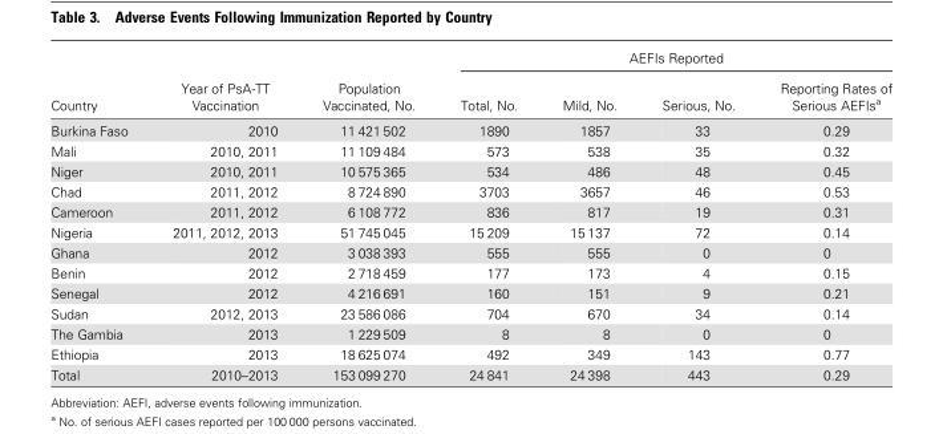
<table><thead><tr><td rowspan="2">Country</td><td rowspan="2">Year of PsA-TT Vaccination</td><td rowspan="2">Population Vaccinated, No.</td><td colspan="4">AEFIs Reported</td></tr><tr><td>Total, No.</td><td>Mild, No.</td><td>Serious, No.</td><td>Reporting Rates of Serious AEFIs<sup>a</sup></td></tr></thead><tbody><tr><td>Burkina Faso</td><td>2010</td><td>11 421 502</td><td>1890</td><td>1857</td><td>33</td><td>0.29</td></tr><tr><td>Mali</td><td>2010, 2011</td><td>11 109 484</td><td>573</td><td>538</td><td>35</td><td>0.32</td></tr><tr><td>Niger</td><td>2010, 2011</td><td>10 575 365</td><td>534</td><td>486</td><td>48</td><td>0.45</td></tr><tr><td>Chad</td><td>2011, 2012</td><td>8 724 890</td><td>3703</td><td>3657</td><td>46</td><td>0.53</td></tr><tr><td>Cameroon</td><td>2011, 2012</td><td>6 108 772</td><td>836</td><td>817</td><td>19</td><td>0.31</td></tr><tr><td>Nigeria</td><td>2011, 2012, 2013</td><td>51 745 045</td><td>15 209</td><td>15 137</td><td>72</td><td>0.14</td></tr><tr><td>Ghana</td><td>2012</td><td>3 038 393</td><td>555</td><td>555</td><td>0</td><td>0</td></tr><tr><td>Benin</td><td>2012</td><td>2 718 459</td><td>177</td><td>173</td><td>4</td><td>0.15</td></tr><tr><td>Senegal</td><td>2012</td><td>4 216 691</td><td>160</td><td>151</td><td>9</td><td>0.21</td></tr><tr><td>Sudan</td><td>2012, 2013</td><td>23 586 086</td><td>704</td><td>670</td><td>34</td><td>0.14</td></tr><tr><td>The Gambia</td><td>2013</td><td>1 229 509</td><td>8</td><td>8</td><td>0</td><td>0</td></tr><tr><td>Ethiopia</td><td>2013</td><td>18 625 074</td><td>492</td><td>349</td><td>143</td><td>0.77</td></tr><tr><td>Total</td><td>2010–2013</td><td>153 099 270</td><td>24 841</td><td>24 398</td><td>443</td><td>0.29</td></tr></tbody></table>